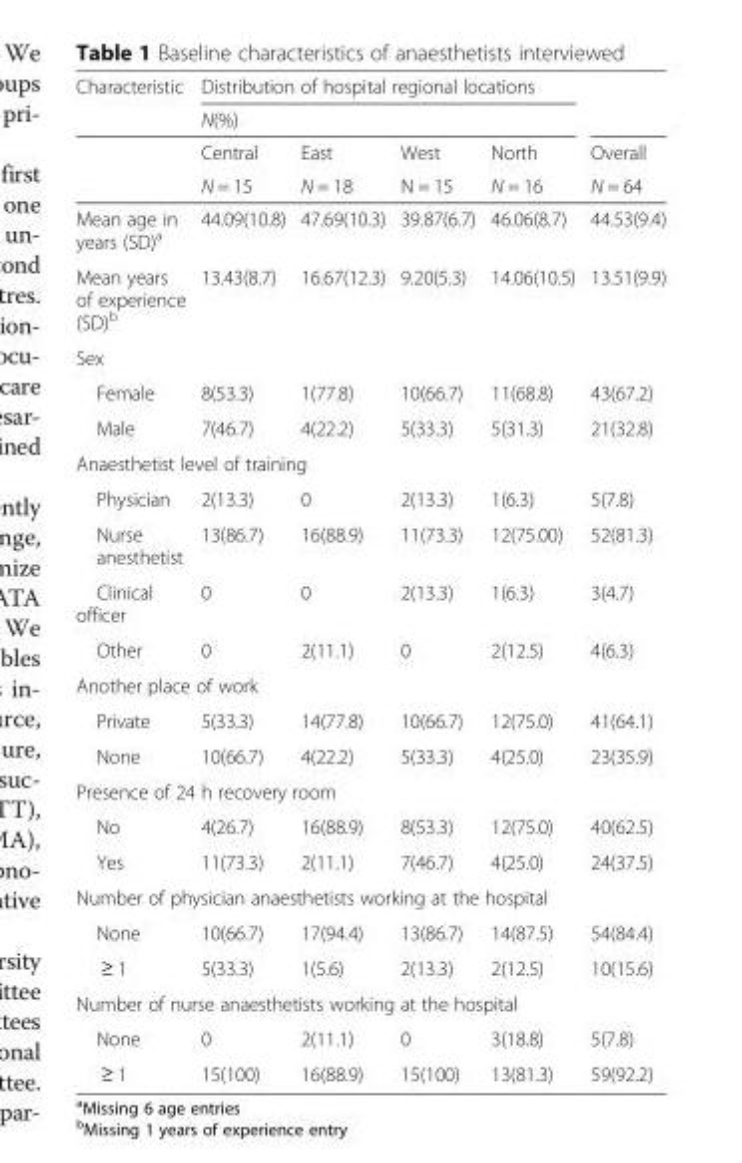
<table><thead><tr><td rowspan="4">Characteristic</td><td rowspan="2" colspan="4">Distribution of hospital regional locations N(%)</td><td rowspan="4">Overall N = 64</td></tr><tr></tr><tr><td rowspan="2">Central N = 15</td><td rowspan="2">East N = 18</td><td rowspan="2">West N = 15</td><td rowspan="2">North N = 16</td></tr><tr></tr></thead><tbody><tr><td>Mean age in years (SD)<sup>a</sup></td><td>44.09(10.8)</td><td>47.69(10.3)</td><td>39.87(6.7)</td><td>46.06(8.7)</td><td>44.53(9.4)</td></tr><tr><td>Mean years of experience (SD)<sup>b</sup></td><td>13.43(8.7)</td><td>16.67(12.3)</td><td>9.20(5.3)</td><td>14.06(10.5)</td><td>13.51(9.9)</td></tr><tr><td colspan="6">Sex</td></tr><tr><td>Female</td><td>8(53.3)</td><td>1(77.8)</td><td>10(66.7)</td><td>11(68.8)</td><td>43(67.2)</td></tr><tr><td>Male</td><td>7(46.7)</td><td>4(22.2)</td><td>5(33.3)</td><td>5(31.3)</td><td>21(32.8)</td></tr><tr><td colspan="6">Anaesthetist level of training</td></tr><tr><td>Physician</td><td>2(13.3)</td><td>0</td><td>2(13.3)</td><td>1(6.3)</td><td>5(7.8)</td></tr><tr><td>Nurse anesthetist</td><td>13(86.7)</td><td>16(88.9)</td><td>11(73.3)</td><td>12(75.00)</td><td>52(81.3)</td></tr><tr><td>Clinical officer</td><td>0</td><td>0</td><td>2(13.3)</td><td>1(6.3)</td><td>3(4.7)</td></tr><tr><td>Other</td><td>0</td><td>2(11.1)</td><td>0</td><td>2(12.5)</td><td>4(6.3)</td></tr><tr><td colspan="6">Another place of work</td></tr><tr><td>Private</td><td>5(33.3)</td><td>14(77.8)</td><td>10(66.7)</td><td>12(75.0)</td><td>41(64.1)</td></tr><tr><td>None</td><td>10(66.7)</td><td>4(22.2)</td><td>5(33.3)</td><td>4(25.0)</td><td>23(35.9)</td></tr><tr><td colspan="6">Presence of 24 h recovery room</td></tr><tr><td>No</td><td>4(26.7)</td><td>16(88.9)</td><td>8(53.3)</td><td>12(75.0)</td><td>40(62.5)</td></tr><tr><td>Yes</td><td>11(73.3)</td><td>2(11.1)</td><td>7(46.7)</td><td>4(25.0)</td><td>24(37.5)</td></tr><tr><td colspan="6">Number of physician anaesthetists working at the hospital</td></tr><tr><td>None</td><td>10(66.7)</td><td>17(94.4)</td><td>13(86.7)</td><td>14(87.5)</td><td>54(84.4)</td></tr><tr><td>≥ 1</td><td>5(33.3)</td><td>1(5.6)</td><td>2(13.3)</td><td>2(12.5)</td><td>10(15.6)</td></tr><tr><td colspan="6">Number of nurse anaesthetists working at the hospital</td></tr><tr><td>None</td><td>0</td><td>2(11.1)</td><td>0</td><td>3(18.8)</td><td>5(7.8)</td></tr><tr><td>≥ 1</td><td>15(100)</td><td>16(88.9)</td><td>15(100)</td><td>13(81.3)</td><td>59(92.2)</td></tr></tbody></table>